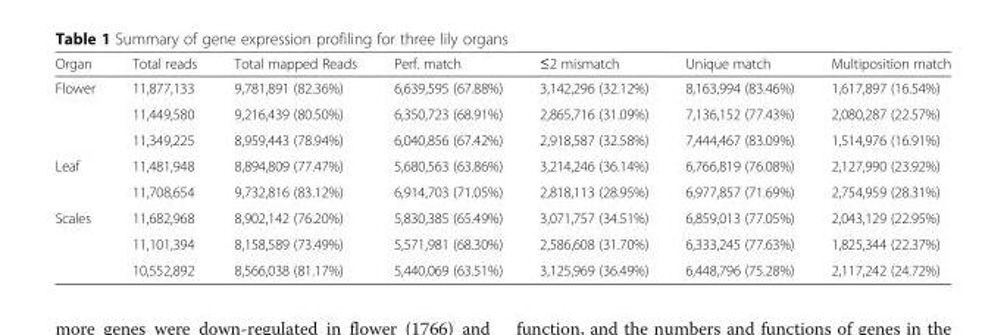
<table><thead><tr><td>Organ</td><td>Total reads</td><td>Total mapped Reads</td><td>Perf. match</td><td>≤2 mismatch</td><td>Unique match</td><td>Multiposition match</td></tr></thead><tbody><tr><td rowspan="3">Flower</td><td>11,877,133</td><td>9,781,891 (82.36%)</td><td>6,639,595 (67.88%)</td><td>3,142,296 (32.12%)</td><td>8,163,994 (83.46%)</td><td>1,617,897 (16.54%)</td></tr><tr><td>11,449,580</td><td>9,216,439 (80.50%)</td><td>6,350,723 (68.91%)</td><td>2,865,716 (31.09%)</td><td>7,136,152 (77.43%)</td><td>2,080,287 (22.57%)</td></tr><tr><td>11,349,225</td><td>8,959,443 (78.94%)</td><td>6,040,856 (67.42%)</td><td>2,918,587 (32.58%)</td><td>7,444,467 (83.09%)</td><td>1,514,976 (16.91%)</td></tr><tr><td rowspan="2">Leaf</td><td>11,481,948</td><td>8,894,809 (77.47%)</td><td>5,680,563 (63.86%)</td><td>3,214,246 (36.14%)</td><td>6,766,819 (76.08%)</td><td>2,127,990 (23.92%)</td></tr><tr><td>11,708,654</td><td>9,732,816 (83.12%)</td><td>6,914,703 (71.05%)</td><td>2,818,113 (28.95%)</td><td>6,977,857 (71.69%)</td><td>2,754,959 (28.31%)</td></tr><tr><td rowspan="3">Scales</td><td>11,682,968</td><td>8,902,142 (76.20%)</td><td>5,830,385 (65.49%)</td><td>3,071,757 (34.51%)</td><td>6,859,013 (77.05%)</td><td>2,043,129 (22.95%)</td></tr><tr><td>11,101,394</td><td>8,158,589 (73.49%)</td><td>5,571,981 (68.30%)</td><td>2,586,608 (31.70%)</td><td>6,333,245 (77.63%)</td><td>1,825,344 (22.37%)</td></tr><tr><td>10,552,892</td><td>8,566,038 (81.17%)</td><td>5,440,069 (63.51%)</td><td>3,125,969 (36.49%)</td><td>6,448,796 (75.28%)</td><td>2,117,242 (24.72%)</td></tr></tbody></table>